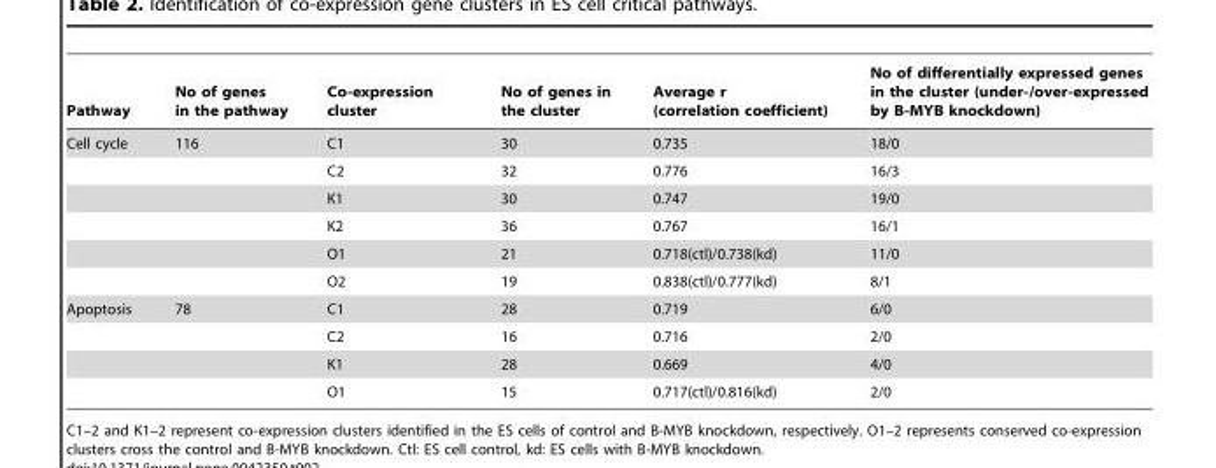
<table><thead><tr><td>Pathway</td><td>No of genes in the pathway</td><td>Co-expression cluster</td><td>No of genes in the cluster</td><td>Average r (correlation coefficient)</td><td>No of differentially expressed genes in the cluster (under-/over-expressed by B-MYB knockdown)</td></tr></thead><tbody><tr><td rowspan="6">Cell cycle</td><td>116</td><td>C1</td><td>30</td><td>0.735</td><td>18/0</td></tr><tr><td></td><td>C2</td><td>32</td><td>0.776</td><td>16/3</td></tr><tr><td></td><td>K1</td><td>30</td><td>0.747</td><td>19/0</td></tr><tr><td></td><td>K2</td><td>36</td><td>0.767</td><td>16/1</td></tr><tr><td></td><td>O1</td><td>21</td><td>0.718(ctl)/0.738(kd)</td><td>11/0</td></tr><tr><td></td><td>O2</td><td>19</td><td>0.838(ctl)/0.777(kd)</td><td>8/1</td></tr><tr><td rowspan="4">Apoptosis</td><td>78</td><td>C1</td><td>28</td><td>0.719</td><td>6/0</td></tr><tr><td></td><td>C2</td><td>16</td><td>0.716</td><td>2/0</td></tr><tr><td></td><td>K1</td><td>28</td><td>0.669</td><td>4/0</td></tr><tr><td></td><td>O1</td><td>15</td><td>0.717(ctl)/0.816(kd)</td><td>2/0</td></tr></tbody></table>